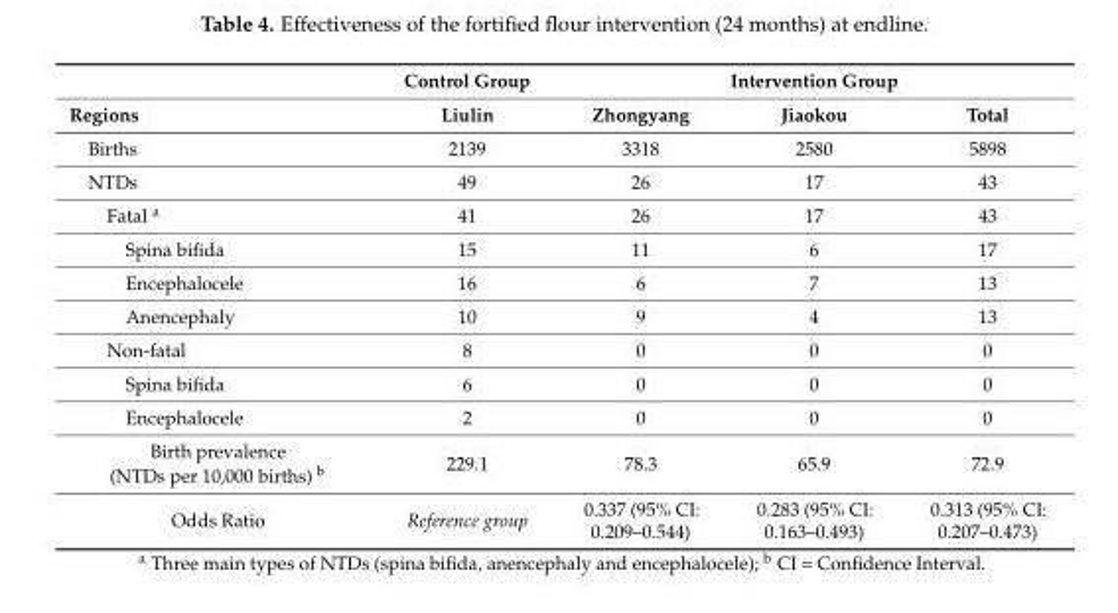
<table><thead><tr><td rowspan="2">Regions</td><td rowspan="2">Control Group Liulin</td><td colspan="3">Intervention Group</td></tr><tr><td>Zhongyang</td><td>Jiaokou</td><td>Total</td></tr></thead><tbody><tr><td>Births</td><td>2139</td><td>3318</td><td>2580</td><td>5898</td></tr><tr><td>NTDs</td><td>49</td><td>26</td><td>17</td><td>43</td></tr><tr><td>Fatal <sup>a</sup></td><td>41</td><td>26</td><td>17</td><td>43</td></tr><tr><td>Spina bifida</td><td>15</td><td>11</td><td>6</td><td>17</td></tr><tr><td>Encephalocele</td><td>16</td><td>6</td><td>7</td><td>13</td></tr><tr><td>Anencephaly</td><td>10</td><td>9</td><td>4</td><td>13</td></tr><tr><td>Non-fatal</td><td>8</td><td>0</td><td>0</td><td>0</td></tr><tr><td>Spina bifida</td><td>6</td><td>0</td><td>0</td><td>0</td></tr><tr><td>Encephalocele</td><td>2</td><td>0</td><td>0</td><td>0</td></tr><tr><td>Birth prevalence (NTDs per 10,000 births) <sup>b</sup></td><td>229.1</td><td>78.3</td><td>65.9</td><td>72.9</td></tr><tr><td>Odds Ratio</td><td>Reference group</td><td>0.337 (95% CI: 0.209–0.544)</td><td>0.283 (95% CI: 0.163–0.493)</td><td>0.313 (95% CI: 0.207–0.473)</td></tr></tbody></table>